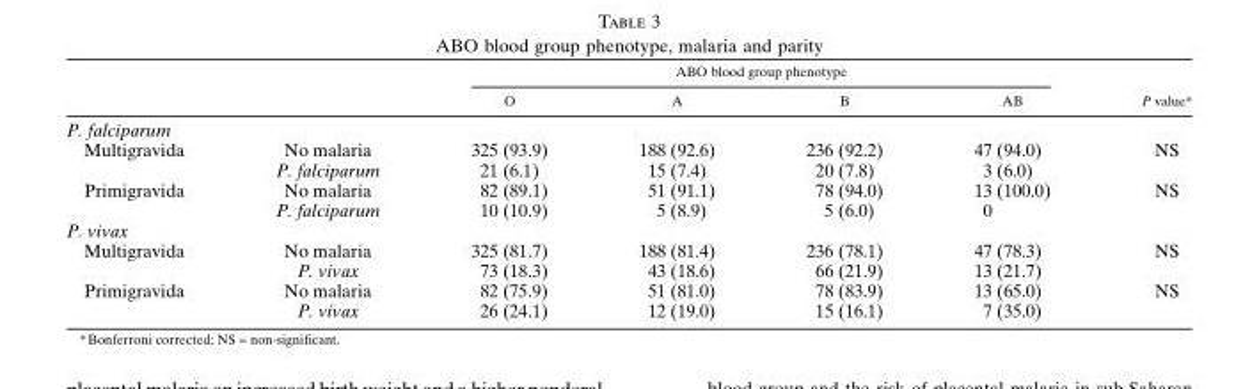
<table><thead><tr><td rowspan="2"></td><td rowspan="2"></td><td colspan="4">ABO blood group phenotype</td><td rowspan="2">P value*</td></tr><tr><td>O</td><td>A</td><td>B</td><td>AB</td></tr></thead><tbody><tr><td colspan="7">P. falciparum</td></tr><tr><td rowspan="2">Multigravida</td><td>No malaria</td><td>325 (93.9)</td><td>188 (92.6)</td><td>236 (92.2)</td><td>47 (94.0)</td><td rowspan="2">NS</td></tr><tr><td>P. falciparum</td><td>21 (6.1)</td><td>15 (7.4)</td><td>20 (7.8)</td><td>3 (6.0)</td></tr><tr><td rowspan="2">Primigravida</td><td>No malaria</td><td>82 (89.1)</td><td>51 (91.1)</td><td>78 (94.0)</td><td>13 (100.0)</td><td rowspan="2">NS</td></tr><tr><td>P. falciparum</td><td>10 (10.9)</td><td>5 (8.9)</td><td>5 (6.0)</td><td>0</td></tr><tr><td colspan="7">P. vivax</td></tr><tr><td rowspan="2">Multigravida</td><td>No malaria</td><td>325 (81.7)</td><td>188 (81.4)</td><td>236 (78.1)</td><td>47 (78.3)</td><td rowspan="2">NS</td></tr><tr><td>P. vivax</td><td>73 (18.3)</td><td>43 (18.6)</td><td>66 (21.9)</td><td>13 (21.7)</td></tr><tr><td rowspan="2">Primigravida</td><td>No malaria</td><td>82 (75.9)</td><td>51 (81.0)</td><td>78 (83.9)</td><td>13 (65.0)</td><td rowspan="2">NS</td></tr><tr><td>P. vivax</td><td>26 (24.1)</td><td>12 (19.0)</td><td>15 (16.1)</td><td>7 (35.0)</td></tr></tbody></table>